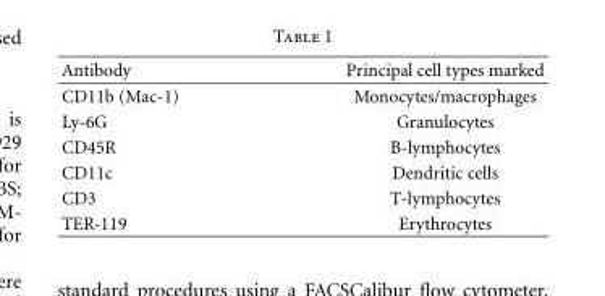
<table><thead><tr><td>Antibody</td><td>Principal cell types marked</td></tr></thead><tbody><tr><td>CD11b (Mac-1)</td><td>Monocytes/macrophages</td></tr><tr><td>Ly-6G</td><td>Granulocytes</td></tr><tr><td>CD45R</td><td>B-lymphocytes</td></tr><tr><td>CD11c</td><td>Dendritic cells</td></tr><tr><td>CD3</td><td>T-lymphocytes</td></tr><tr><td>TER-119</td><td>Erythrocytes</td></tr></tbody></table>